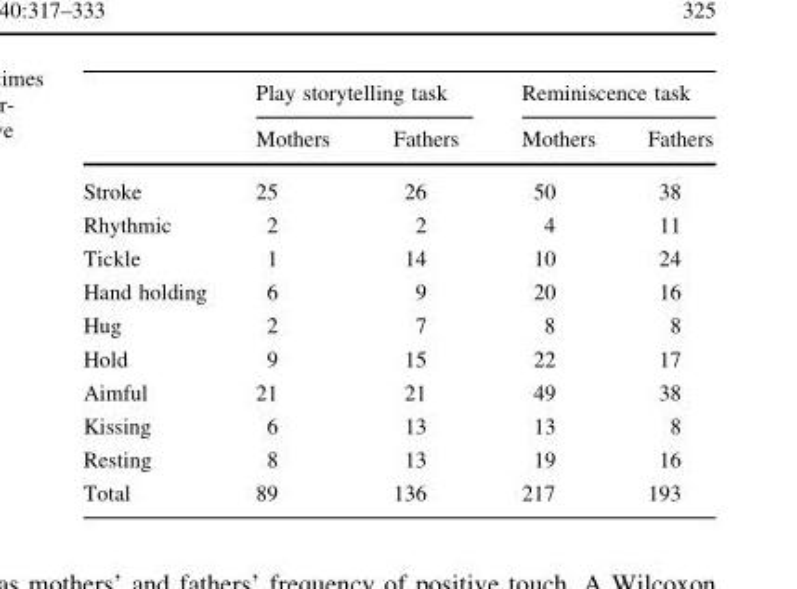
<table><thead><tr><td rowspan="2"></td><td colspan="2">Play storytelling task</td><td colspan="2">Reminiscence task</td></tr><tr><td>Mothers</td><td>Fathers</td><td>Mothers</td><td>Fathers</td></tr></thead><tbody><tr><td>Stroke</td><td>25</td><td>26</td><td>50</td><td>38</td></tr><tr><td>Rhythmic</td><td>2</td><td>2</td><td>4</td><td>11</td></tr><tr><td>Tickle</td><td>1</td><td>14</td><td>10</td><td>24</td></tr><tr><td>Hand holding</td><td>6</td><td>9</td><td>20</td><td>16</td></tr><tr><td>Hug</td><td>2</td><td>7</td><td>8</td><td>8</td></tr><tr><td>Hold</td><td>9</td><td>15</td><td>22</td><td>17</td></tr><tr><td>Aimful</td><td>21</td><td>21</td><td>49</td><td>38</td></tr><tr><td>Kissing</td><td>6</td><td>13</td><td>13</td><td>8</td></tr><tr><td>Resting</td><td>8</td><td>13</td><td>19</td><td>16</td></tr><tr><td>Total</td><td>89</td><td>136</td><td>217</td><td>193</td></tr></tbody></table>